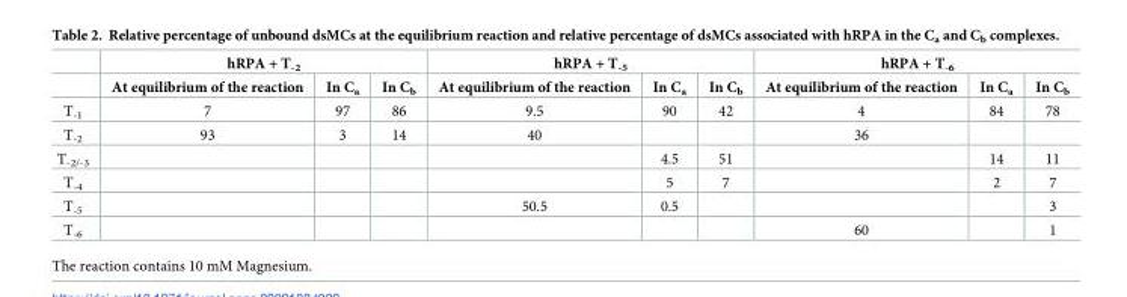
<table><thead><tr><td rowspan="2"></td><td colspan="3">hRPA + T<sub>-2</sub></td><td colspan="3">hRPA + T<sub>-5</sub></td><td colspan="3">hRPA + T<sub>-6</sub></td></tr><tr><td>At equilibrium of the reaction</td><td>In C<sub>a</sub></td><td>In C<sub>b</sub></td><td>At equilibrium of the reaction</td><td>In C<sub>a</sub></td><td>In C<sub>b</sub></td><td>At equilibrium of the reaction</td><td>In C<sub>a</sub></td><td>In C<sub>b</sub></td></tr></thead><tbody><tr><td>T<sub>-1</sub></td><td>7</td><td>97</td><td>86</td><td>9.5</td><td>90</td><td>42</td><td>4</td><td>84</td><td>78</td></tr><tr><td>T<sub>-2</sub></td><td>93</td><td>3</td><td>14</td><td>40</td><td></td><td></td><td>36</td><td></td><td></td></tr><tr><td>T<sub>-2/-3</sub></td><td></td><td></td><td></td><td></td><td>4.5</td><td>51</td><td></td><td>14</td><td>11</td></tr><tr><td>T<sub>-4</sub></td><td></td><td></td><td></td><td></td><td>5</td><td>7</td><td></td><td>2</td><td>7</td></tr><tr><td>T<sub>-5</sub></td><td></td><td></td><td></td><td>50.5</td><td>0.5</td><td></td><td></td><td></td><td>3</td></tr><tr><td>T<sub>-6</sub></td><td></td><td></td><td></td><td></td><td></td><td></td><td>60</td><td></td><td>1</td></tr></tbody></table>